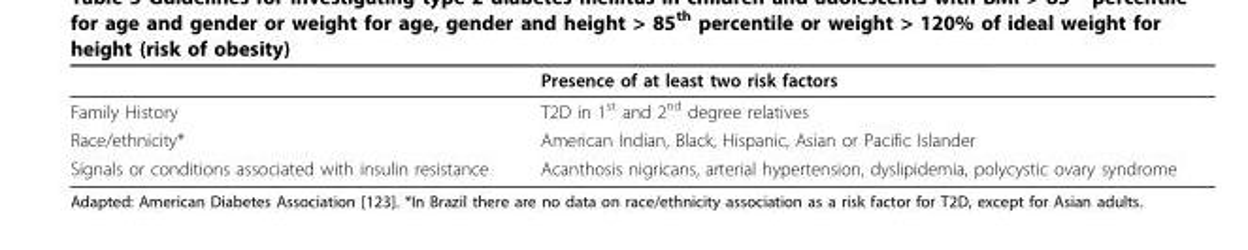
<table><thead><tr><td></td><td>Presence of at least two risk factors</td></tr></thead><tbody><tr><td>Family History</td><td>T2D in 1<sup>st</sup> and 2<sup>nd</sup> degree relatives</td></tr><tr><td>Race/ethnicity*</td><td>American Indian, Black, Hispanic, Asian or Pacific Islander</td></tr><tr><td>Signals or conditions associated with insulin resistance</td><td>Acanthosis nigricans, arterial hypertension, dyslipidemia, polycystic ovary syndrome</td></tr></tbody></table>